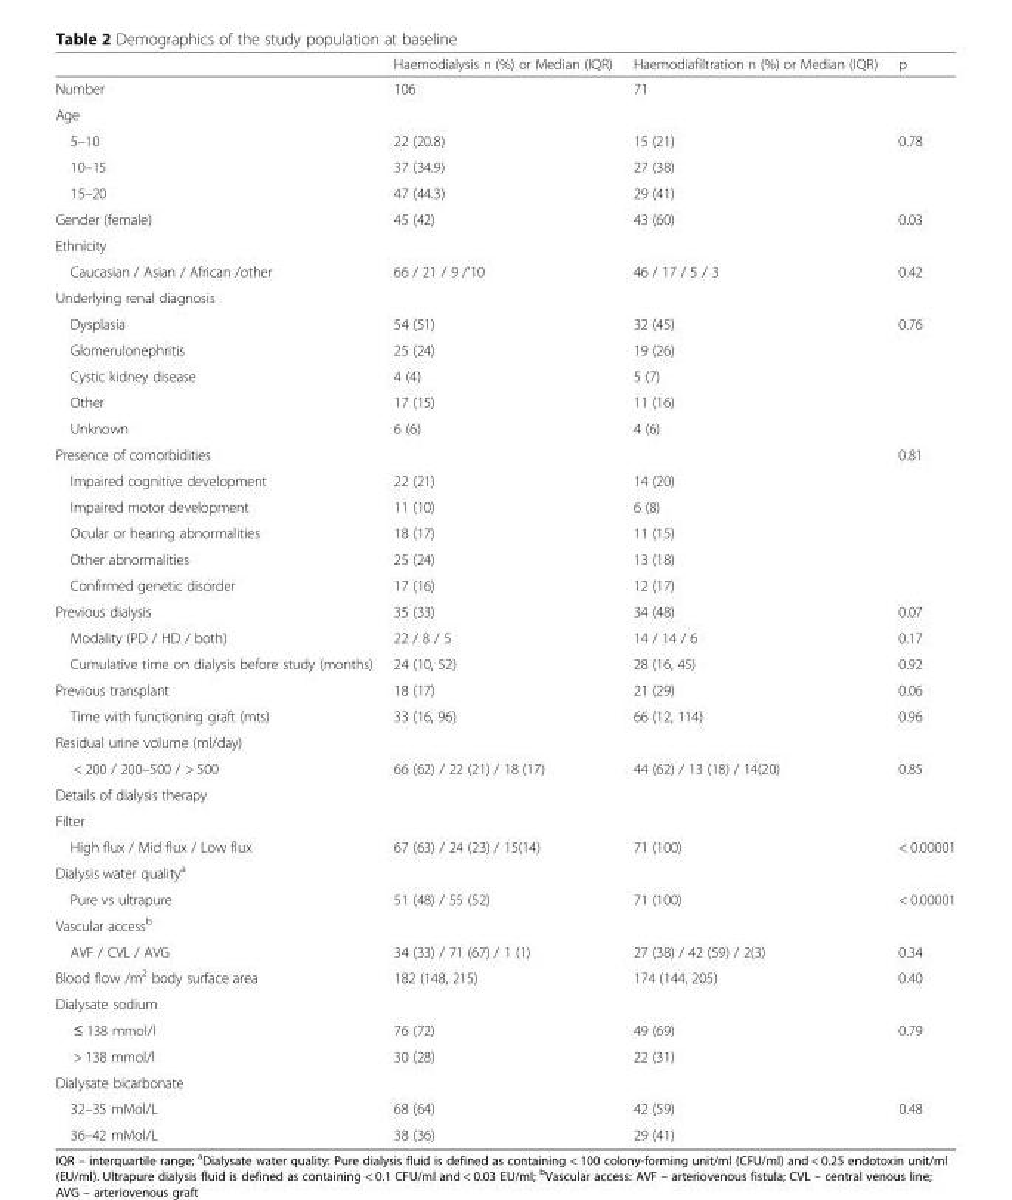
<table><thead><tr><td></td><td>Haemodialysis n (%) or Median (IQR)</td><td>Haemodiafiltration n (%) or Median (IQR)</td><td>p</td></tr></thead><tbody><tr><td>Number</td><td>106</td><td>71</td><td></td></tr><tr><td colspan="4">Age</td></tr><tr><td>5–10</td><td>22 (20.8)</td><td>15 (21)</td><td rowspan="3">0.78</td></tr><tr><td>10–15</td><td>37 (34.9)</td><td>27 (38)</td></tr><tr><td>15–20</td><td>47 (44.3)</td><td>29 (41)</td></tr><tr><td>Gender (female)</td><td>45 (42)</td><td>43 (60)</td><td>0.03</td></tr><tr><td colspan="4">Ethnicity</td></tr><tr><td>Caucasian / Asian / African /other</td><td>66 / 21 / 9 /’10</td><td>46 / 17 / 5 / 3</td><td>0.42</td></tr><tr><td colspan="4">Underlying renal diagnosis</td></tr><tr><td>Dysplasia</td><td>54 (51)</td><td>32 (45)</td><td rowspan="5">0.76</td></tr><tr><td>Glomerulonephritis</td><td>25 (24)</td><td>19 (26)</td></tr><tr><td>Cystic kidney disease</td><td>4 (4)</td><td>5 (7)</td></tr><tr><td>Other</td><td>17 (15)</td><td>11 (16)</td></tr><tr><td>Unknown</td><td>6 (6)</td><td>4 (6)</td></tr><tr><td colspan="3">Presence of comorbidities</td><td rowspan="6">0.81</td></tr><tr><td>Impaired cognitive development</td><td>22 (21)</td><td>14 (20)</td></tr><tr><td>Impaired motor development</td><td>11 (10)</td><td>6 (8)</td></tr><tr><td>Ocular or hearing abnormalities</td><td>18 (17)</td><td>11 (15)</td></tr><tr><td>Other abnormalities</td><td>25 (24)</td><td>13 (18)</td></tr><tr><td>Confirmed genetic disorder</td><td>17 (16)</td><td>12 (17)</td></tr><tr><td>Previous dialysis</td><td>35 (33)</td><td>34 (48)</td><td>0.07</td></tr><tr><td>Modality (PD / HD / both)</td><td>22 / 8 / 5</td><td>14 / 14 / 6</td><td>0.17</td></tr><tr><td>Cumulative time on dialysis before study (months)</td><td>24 (10, 52)</td><td>28 (16, 45)</td><td>0.92</td></tr><tr><td>Previous transplant</td><td>18 (17)</td><td>21 (29)</td><td>0.06</td></tr><tr><td>Time with functioning graft (mts)</td><td>33 (16, 96)</td><td>66 (12, 114)</td><td>0.96</td></tr><tr><td colspan="4">Residual urine volume (ml/day)</td></tr><tr><td>&lt; 200 / 200–500 / &gt; 500</td><td>66 (62) / 22 (21) / 18 (17)</td><td>44 (62) / 13 (18) / 14(20)</td><td>0.85</td></tr><tr><td colspan="4">Details of dialysis therapy</td></tr><tr><td colspan="4">Filter</td></tr><tr><td>High flux / Mid flux / Low flux</td><td>67 (63) / 24 (23) / 15(14)</td><td>71 (100)</td><td>&lt; 0.00001</td></tr><tr><td colspan="4">Dialysis water quality<sup>a</sup></td></tr><tr><td>Pure vs ultrapure</td><td>51 (48) / 55 (52)</td><td>71 (100)</td><td>&lt; 0.00001</td></tr><tr><td colspan="4">Vascular access<sup>b</sup></td></tr><tr><td>AVF / CVL / AVG</td><td>34 (33) / 71 (67) / 1 (1)</td><td>27 (38) / 42 (59) / 2(3)</td><td>0.34</td></tr><tr><td>Blood flow /m<sup>2</sup> body surface area</td><td>182 (148, 215)</td><td>174 (144, 205)</td><td>0.40</td></tr><tr><td colspan="4">Dialysate sodium</td></tr><tr><td>≤ 138 mmol/l</td><td>76 (72)</td><td>49 (69)</td><td rowspan="2">0.79</td></tr><tr><td>&gt; 138 mmol/l</td><td>30 (28)</td><td>22 (31)</td></tr><tr><td colspan="4">Dialysate bicarbonate</td></tr><tr><td>32–35 mMol/L</td><td>68 (64)</td><td>42 (59)</td><td rowspan="2">0.48</td></tr><tr><td>36–42 mMol/L</td><td>38 (36)</td><td>29 (41)</td></tr></tbody></table>